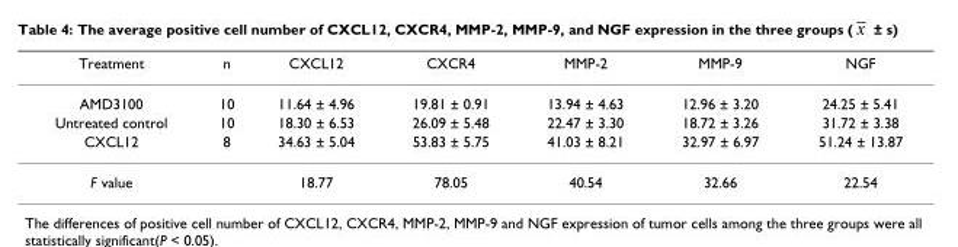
<table><thead><tr><td>Treatment</td><td>n</td><td>CXCL12</td><td>CXCR4</td><td>MMP-2</td><td>MMP-9</td><td>NGF</td></tr></thead><tbody><tr><td>AMD3100</td><td>10</td><td>11.64 ± 4.96</td><td>19.81 ± 0.91</td><td>13.94 ± 4.63</td><td>12.96 ± 3.20</td><td>24.25 ± 5.41</td></tr><tr><td>Untreated control</td><td>10</td><td>18.30 ± 6.53</td><td>26.09 ± 5.48</td><td>22.47 ± 3.30</td><td>18.72 ± 3.26</td><td>31.72 ± 3.38</td></tr><tr><td>CXCL12</td><td>8</td><td>34.63 ± 5.04</td><td>53.83 ± 5.75</td><td>41.03 ± 8.21</td><td>32.97 ± 6.97</td><td>51.24 ± 13.87</td></tr><tr><td>F value</td><td></td><td>18.77</td><td>78.05</td><td>40.54</td><td>32.66</td><td>22.54</td></tr></tbody></table>